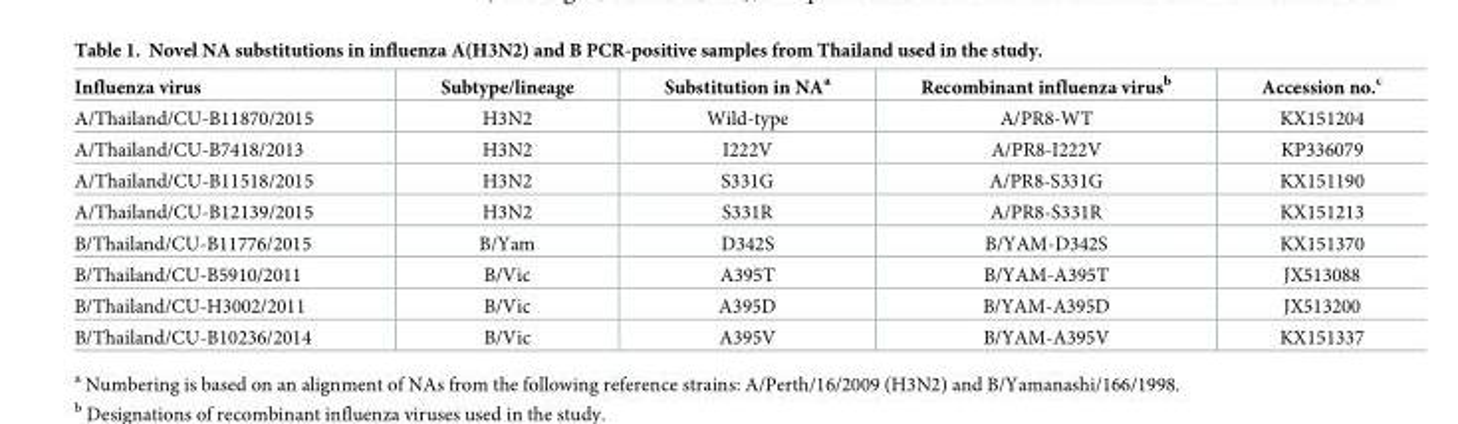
<table><thead><tr><td>Influenza virus</td><td>Subtype/lineage</td><td>Substitution in NA<sup>a</sup></td><td>Recombinant influenza virus<sup>b</sup></td><td>Accession no.<sup>c</sup></td></tr></thead><tbody><tr><td>A/Thailand/CU-B11870/2015</td><td>H3N2</td><td>Wild-type</td><td>A/PR8-WT</td><td>KX151204</td></tr><tr><td>A/Thailand/CU-B7418/2013</td><td>H3N2</td><td>I222V</td><td>A/PR8-I222V</td><td>KP336079</td></tr><tr><td>A/Thailand/CU-B11518/2015</td><td>H3N2</td><td>S331G</td><td>A/PR8-S331G</td><td>KX151190</td></tr><tr><td>A/Thailand/CU-B12139/2015</td><td>H3N2</td><td>S331R</td><td>A/PR8-S331R</td><td>KX151213</td></tr><tr><td>B/Thailand/CU-B11776/2015</td><td>B/Yam</td><td>D342S</td><td>B/YAM-D342S</td><td>KX151370</td></tr><tr><td>B/Thailand/CU-B5910/2011</td><td>B/Vic</td><td>A395T</td><td>B/YAM-A395T</td><td>JX513088</td></tr><tr><td>B/Thailand/CU-H3002/2011</td><td>B/Vic</td><td>A395D</td><td>B/YAM-A395D</td><td>JX513200</td></tr><tr><td>B/Thailand/CU-B10236/2014</td><td>B/Vic</td><td>A395V</td><td>B/YAM-A395V</td><td>KX151337</td></tr></tbody></table>